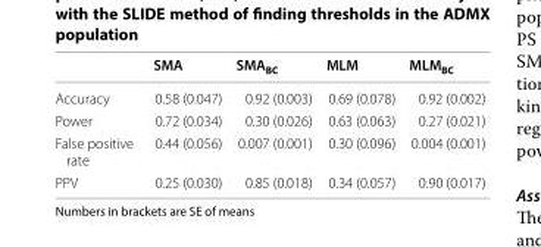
<table><thead><tr><td></td><td>SMA</td><td>SMA<sub>BC</sub></td><td>MLM</td><td>MLM<sub>BC</sub></td></tr></thead><tbody><tr><td>Accuracy</td><td>0.58 (0.047)</td><td>0.92 (0.003)</td><td>0.69 (0.078)</td><td>0.92 (0.002)</td></tr><tr><td>Power</td><td>0.72 (0.034)</td><td>0.30 (0.026)</td><td>0.63 (0.063)</td><td>0.27 (0.021)</td></tr><tr><td>False positive rate</td><td>0.44 (0.056)</td><td>0.007 (0.001)</td><td>0.30 (0.096)</td><td>0.004 (0.001)</td></tr><tr><td>PPV</td><td>0.25 (0.030)</td><td>0.85 (0.018)</td><td>0.34 (0.057)</td><td>0.90 (0.017)</td></tr></tbody></table>